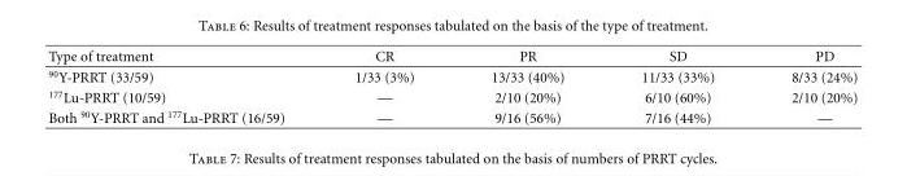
<table><thead><tr><td>Type of treatment</td><td>CR</td><td>PR</td><td>SD</td><td>PD</td></tr></thead><tbody><tr><td><sup>90</sup>Y-PRRT (33/59)</td><td>1/33 (3%)</td><td>13/33 (40%)</td><td>11/33 (33%)</td><td>8/33 (24%)</td></tr><tr><td><sup>177</sup>Lu-PRRT (10/59)</td><td>—</td><td>2/10 (20%)</td><td>6/10 (60%)</td><td>2/10 (20%)</td></tr><tr><td>Both <sup>90</sup>Y-PRRT and <sup>177</sup>Lu-PRRT (16/59)</td><td>—</td><td>9/16 (56%)</td><td>7/16 (44%)</td><td>—</td></tr></tbody></table>